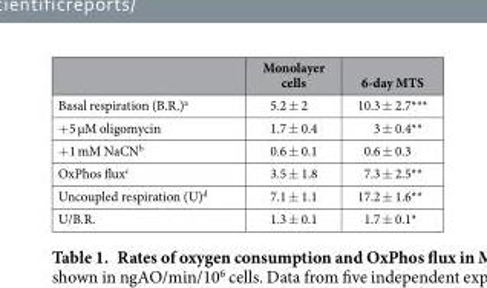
<table><thead><tr><td></td><td>Monolayer cells</td><td>6-day MTS</td></tr></thead><tbody><tr><td>Basal respiration (B.R.)<sup>a</sup></td><td>5.2 ± 2</td><td>10.3 ± 2.7***</td></tr><tr><td>+ 5 μM oligomycin</td><td>1.7 ± 0.4</td><td>3 ± 0.4**</td></tr><tr><td>+ 1 mM NaCN<sup>b</sup></td><td>0.6 ± 0.1</td><td>0.6 ± 0.3</td></tr><tr><td>OxPhos flux<sup>c</sup></td><td>3.5 ± 1.8</td><td>7.3 ± 2.5**</td></tr><tr><td>Uncoupled respiration (U)<sup>d</sup></td><td>7.1 ± 1.1</td><td>17.2 ± 1.6**</td></tr><tr><td>U/B.R.</td><td>1.3 ± 0.1</td><td>1.7 ± 0.1*</td></tr></tbody></table>